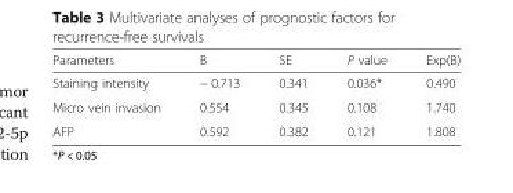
<table><thead><tr><td>Parameters</td><td>B</td><td>SE</td><td>P value</td><td>Exp(B)</td></tr></thead><tbody><tr><td>Staining intensity</td><td>− 0.713</td><td>0.341</td><td>0.036*</td><td>0.490</td></tr><tr><td>Micro vein invasion</td><td>0.554</td><td>0.345</td><td>0.108</td><td>1.740</td></tr><tr><td>AFP</td><td>0.592</td><td>0.382</td><td>0.121</td><td>1.808</td></tr></tbody></table>